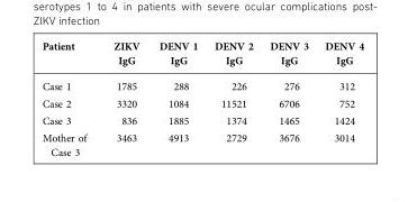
<table><thead><tr><td>Patient</td><td>ZIKV IgG</td><td>DENV 1 IgG</td><td>DENV 2 IgG</td><td>DENV 3 IgG</td><td>DENV 4 IgG</td></tr></thead><tbody><tr><td>Case 1</td><td>1785</td><td>288</td><td>226</td><td>276</td><td>312</td></tr><tr><td>Case 2</td><td>3320</td><td>1084</td><td>11521</td><td>6706</td><td>752</td></tr><tr><td>Case 3</td><td>836</td><td>1885</td><td>1374</td><td>1465</td><td>1424</td></tr><tr><td>Mother of Case 3</td><td>3463</td><td>4913</td><td>2729</td><td>3676</td><td>3014</td></tr></tbody></table>